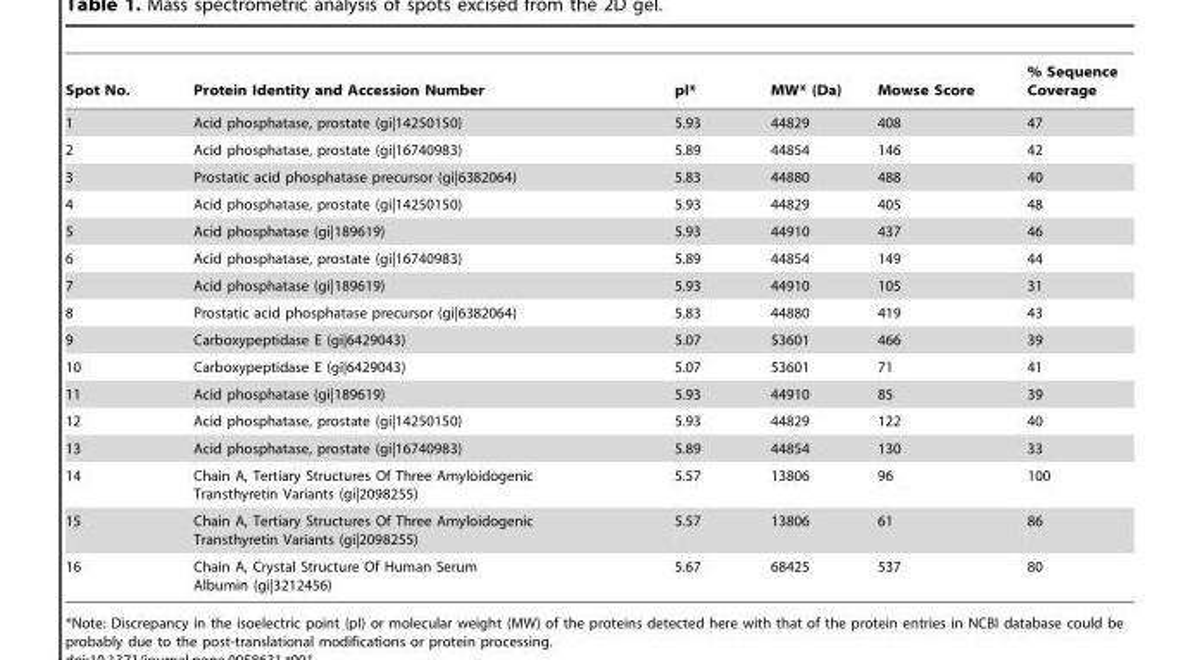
<table><thead><tr><td>Spot No.</td><td>Protein Identity and Accession Number</td><td>pI*</td><td>MW* (Da)</td><td>Mowse Score</td><td>% Sequence Coverage</td></tr></thead><tbody><tr><td>1</td><td>Acid phosphatase, prostate (gi|14250150)</td><td>5.93</td><td>44829</td><td>408</td><td>47</td></tr><tr><td>2</td><td>Acid phosphatase, prostate (gi|16740983)</td><td>5.89</td><td>44854</td><td>146</td><td>42</td></tr><tr><td>3</td><td>Prostatic acid phosphatase precursor (gi|6382064)</td><td>5.83</td><td>44880</td><td>488</td><td>40</td></tr><tr><td>4</td><td>Acid phosphatase, prostate (gi|14250150)</td><td>5.93</td><td>44829</td><td>405</td><td>48</td></tr><tr><td>5</td><td>Acid phosphatase (gi|189619)</td><td>5.93</td><td>44910</td><td>437</td><td>46</td></tr><tr><td>6</td><td>Acid phosphatase, prostate (gi|16740983)</td><td>5.89</td><td>44854</td><td>149</td><td>44</td></tr><tr><td>7</td><td>Acid phosphatase (gi|189619)</td><td>5.93</td><td>44910</td><td>105</td><td>31</td></tr><tr><td>8</td><td>Prostatic acid phosphatase precursor (gi|6382064)</td><td>5.83</td><td>44880</td><td>419</td><td>43</td></tr><tr><td>9</td><td>Carboxypeptidase E (gi|6429043)</td><td>5.07</td><td>53601</td><td>466</td><td>39</td></tr><tr><td>10</td><td>Carboxypeptidase E (gi|6429043)</td><td>5.07</td><td>53601</td><td>71</td><td>41</td></tr><tr><td>11</td><td>Acid phosphatase (gi|189619)</td><td>5.93</td><td>44910</td><td>85</td><td>39</td></tr><tr><td>12</td><td>Acid phosphatase, prostate (gi|14250150)</td><td>5.93</td><td>44829</td><td>122</td><td>40</td></tr><tr><td>13</td><td>Acid phosphatase, prostate (gi|16740983)</td><td>5.89</td><td>44854</td><td>130</td><td>33</td></tr><tr><td>14</td><td>Chain A, Tertiary Structures Of Three Amyloidogenic Transthyretin Variants (gi|2098255)</td><td>5.57</td><td>13806</td><td>96</td><td>100</td></tr><tr><td>15</td><td>Chain A, Tertiary Structures Of Three Amyloidogenic Transthyretin Variants (gi|2098255)</td><td>5.57</td><td>13806</td><td>61</td><td>86</td></tr><tr><td>16</td><td>Chain A, Crystal Structure Of Human Serum Albumin (gi|3212456)</td><td>5.67</td><td>68425</td><td>537</td><td>80</td></tr></tbody></table>